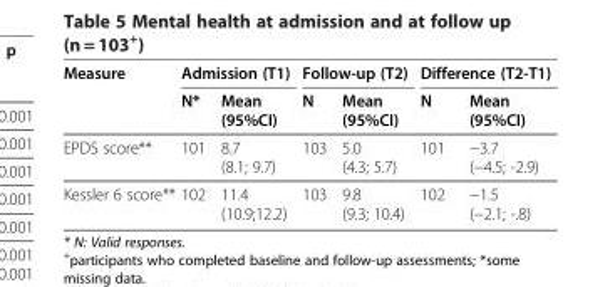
<table><thead><tr><td rowspan="2">Measure</td><td colspan="2">Admission (T1)</td><td colspan="2">Follow-up (T2)</td><td colspan="2">Difference (T2-T1)</td></tr><tr><td>N*</td><td>Mean (95%CI)</td><td>N</td><td>Mean (95%CI)</td><td>N</td><td>Mean (95%CI)</td></tr></thead><tbody><tr><td>EPDS score**</td><td>101</td><td>8.7 (8.1; 9.7)</td><td>103</td><td>5.0 (4.3; 5.7)</td><td>101</td><td>−3.7 (−4.5; -2.9)</td></tr><tr><td>Kessler 6 score**</td><td>102</td><td>11.4 (10.9;12.2)</td><td>103</td><td>9.8 (9.3; 10.4)</td><td>102</td><td>−1.5 (−2.1; -.8)</td></tr></tbody></table>